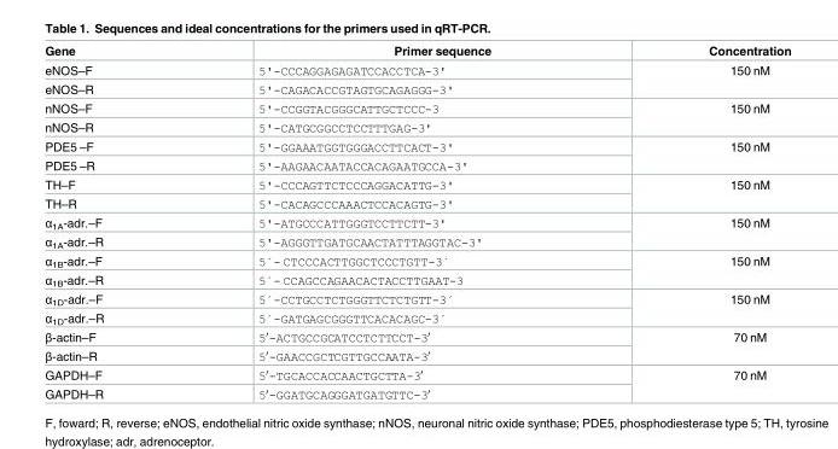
<table><thead><tr><td>Gene</td><td>Primer sequence</td><td>Concentration</td></tr></thead><tbody><tr><td>eNOS–F</td><td>5&#x27;-CCCAGGAGAGATCCACCTCA-3&#x27;</td><td rowspan="2">150 nM</td></tr><tr><td>eNOS–R</td><td>5&#x27;-CAGACACCGTAGTGCAGAGGG-3&#x27;</td></tr><tr><td>nNOS–F</td><td>5&#x27;-CCGGTACGGGCATTGCTCCC-3</td><td rowspan="2">150 nM</td></tr><tr><td>nNOS–R</td><td>5&#x27;-CATGCGGCCTCCTTTGAG-3&#x27;</td></tr><tr><td>PDE5 –F</td><td>5&#x27;-GGAAATGGTGGGACCTTCACT-3&#x27;</td><td rowspan="2">150 nM</td></tr><tr><td>PDE5 –R</td><td>5&#x27;-AAGAACAATACCACAGAATGCCA-3&#x27;</td></tr><tr><td>TH–F</td><td>5&#x27;-CCCAGTTCTCCCAGGACATTG-3&#x27;</td><td rowspan="2">150 nM</td></tr><tr><td>TH–R</td><td>5&#x27;-CACAGCCCAAACTCCACAGTG-3&#x27;</td></tr><tr><td>α<sub>1A</sub>-adr.–F</td><td>5&#x27;-ATGCCCATTGGGTCCTTCTT-3&#x27;</td><td rowspan="2">150 nM</td></tr><tr><td>α<sub>1A</sub>-adr.–R</td><td>5&#x27;-AGGGTTGATGCAACTATTTAGGTAC-3&#x27;</td></tr><tr><td>α<sub>1B</sub>-adr.–F</td><td>5´- CTCCCACTTGGCTCCCTGTT-3´</td><td rowspan="2">150 nM</td></tr><tr><td>α<sub>1B</sub>-adr.–R</td><td>5´- CCAGCCAGAACACTACCTTGAAT-3</td></tr><tr><td>α<sub>1D</sub>-adr.–F</td><td>5´-CCTGCCTCTGGGTTCTCTGTT-3´</td><td rowspan="2">150 nM</td></tr><tr><td>α<sub>1D</sub>-adr.–R</td><td>5´-GATGAGCGGGTTCACACAGC-3´</td></tr><tr><td>β-actin–F</td><td>5′-ACTGCCGCATCCTCTTCCT-3′</td><td rowspan="2">70 nM</td></tr><tr><td>β-actin–R</td><td>5′-GAACCGCTCGTTGCCAATA-3′</td></tr><tr><td>GAPDH–F</td><td>5′-TGCACCACCAACTGCTTA-3′</td><td rowspan="2">70 nM</td></tr><tr><td>GAPDH–R</td><td>5′-GGATGCAGGGATGATGTTC-3′</td></tr></tbody></table>